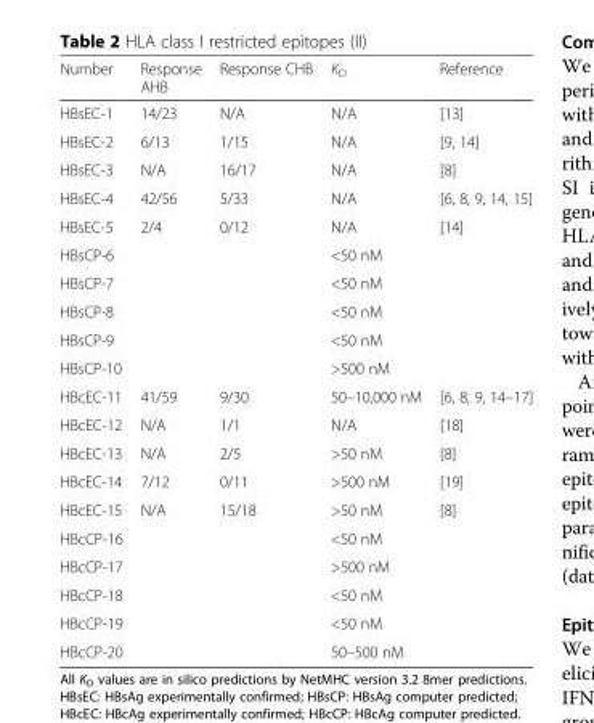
<table><thead><tr><td>Number</td><td>Response AHB</td><td>Response CHB</td><td>K<sub>D</sub></td><td>Reference</td></tr></thead><tbody><tr><td>HBsEC-1</td><td>14/23</td><td>N/A</td><td>N/A</td><td>[13]</td></tr><tr><td>HBsEC-2</td><td>6/13</td><td>1/15</td><td>N/A</td><td>[9, 14]</td></tr><tr><td>HBsEC-3</td><td>N/A</td><td>16/17</td><td>N/A</td><td>[8]</td></tr><tr><td>HBsEC-4</td><td>42/56</td><td>5/33</td><td>N/A</td><td>[6, 8, 9, 14, 15]</td></tr><tr><td>HBsEC-5</td><td>2/4</td><td>0/12</td><td>N/A</td><td>[14]</td></tr><tr><td>HBsCP-6</td><td></td><td></td><td>&lt;50 nM</td><td></td></tr><tr><td>HBsCP-7</td><td></td><td></td><td>&lt;50 nM</td><td></td></tr><tr><td>HBsCP-8</td><td></td><td></td><td>&lt;50 nM</td><td></td></tr><tr><td>HBsCP-9</td><td></td><td></td><td>&lt;50 nM</td><td></td></tr><tr><td>HBsCP-10</td><td></td><td></td><td>&gt;500 nM</td><td></td></tr><tr><td>HBcEC-11</td><td>41/59</td><td>9/30</td><td>50–10,000 nM</td><td>[6, 8, 9, 14–17]</td></tr><tr><td>HBcEC-12</td><td>N/A</td><td>1/1</td><td>N/A</td><td>[18]</td></tr><tr><td>HBcEC-13</td><td>N/A</td><td>2/5</td><td>&gt;50 nM</td><td>[8]</td></tr><tr><td>HBcEC-14</td><td>7/12</td><td>0/11</td><td>&gt;500 nM</td><td>[19]</td></tr><tr><td>HBcEC-15</td><td>N/A</td><td>15/18</td><td>&gt;50 nM</td><td>[8]</td></tr><tr><td>HBcCP-16</td><td></td><td></td><td>&lt;50 nM</td><td></td></tr><tr><td>HBcCP-17</td><td></td><td></td><td>&gt;500 nM</td><td></td></tr><tr><td>HBcCP-18</td><td></td><td></td><td>&lt;50 nM</td><td></td></tr><tr><td>HBcCP-19</td><td></td><td></td><td>&lt;50 nM</td><td></td></tr><tr><td>HBcCP-20</td><td></td><td></td><td>50–500 nM</td><td></td></tr></tbody></table>